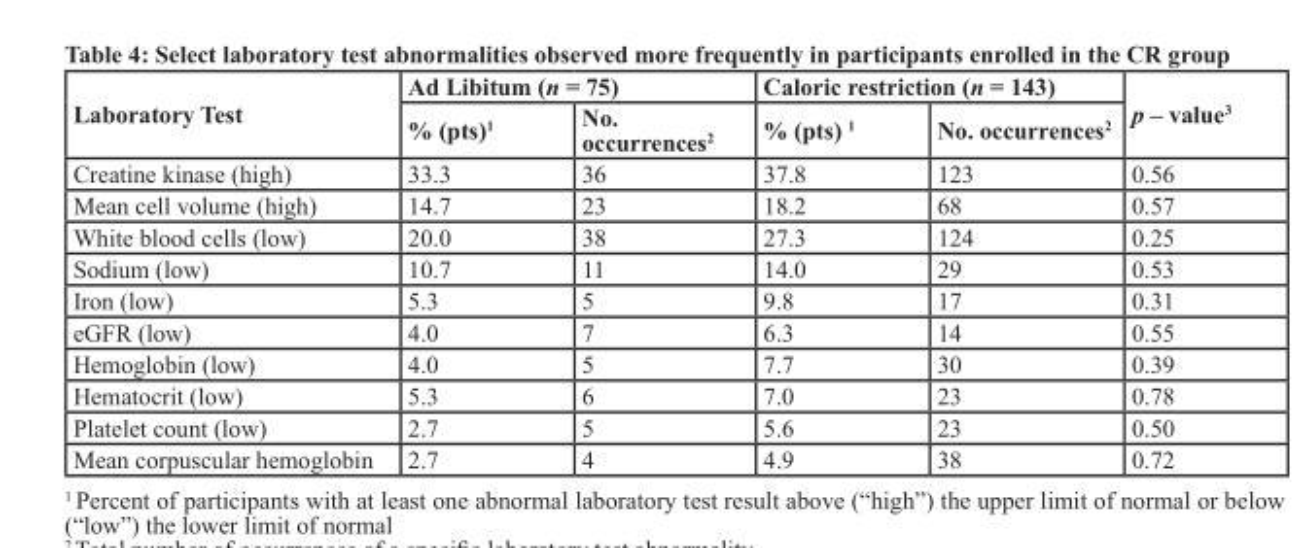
<table><thead><tr><td rowspan="2">Laboratory Test</td><td colspan="2">Ad Libitum (n = 75)</td><td colspan="2">Caloric restriction (n = 143)</td><td rowspan="2">p – value<sup>3</sup></td></tr><tr><td>% (pts)<sup>1</sup></td><td>No. occurrences<sup>2</sup></td><td>% (pts) <sup>1</sup></td><td>No. occurrences<sup>2</sup></td></tr></thead><tbody><tr><td>Creatine kinase (high)</td><td>33.3</td><td>36</td><td>37.8</td><td>123</td><td>0.56</td></tr><tr><td>Mean cell volume (high)</td><td>14.7</td><td>23</td><td>18.2</td><td>68</td><td>0.57</td></tr><tr><td>White blood cells (low)</td><td>20.0</td><td>38</td><td>27.3</td><td>124</td><td>0.25</td></tr><tr><td>Sodium (low)</td><td>10.7</td><td>11</td><td>14.0</td><td>29</td><td>0.53</td></tr><tr><td>Iron (low)</td><td>5.3</td><td>5</td><td>9.8</td><td>17</td><td>0.31</td></tr><tr><td>eGFR (low)</td><td>4.0</td><td>7</td><td>6.3</td><td>14</td><td>0.55</td></tr><tr><td>Hemoglobin (low)</td><td>4.0</td><td>5</td><td>7.7</td><td>30</td><td>0.39</td></tr><tr><td>Hematocrit (low)</td><td>5.3</td><td>6</td><td>7.0</td><td>23</td><td>0.78</td></tr><tr><td>Platelet count (low)</td><td>2.7</td><td>5</td><td>5.6</td><td>23</td><td>0.50</td></tr><tr><td>Mean corpuscular hemoglobin</td><td>2.7</td><td>4</td><td>4.9</td><td>38</td><td>0.72</td></tr></tbody></table>